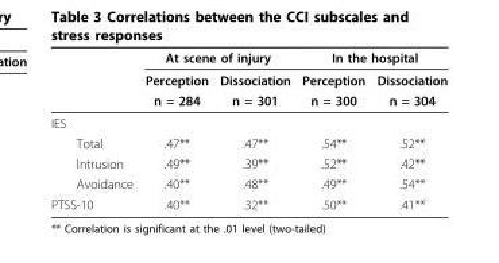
<table><thead><tr><td rowspan="2"></td><td colspan="2">At scene of injury</td><td colspan="2">In the hospital</td></tr><tr><td>Perception</td><td>Dissociation</td><td>Perception</td><td>Dissociation</td></tr></thead><tbody><tr><td></td><td>n = 284</td><td>n = 301</td><td>n = 300</td><td>n = 304</td></tr><tr><td colspan="5">IES</td></tr><tr><td>Total</td><td>.47**</td><td>.47**</td><td>.54**</td><td>.52**</td></tr><tr><td>Intrusion</td><td>.49**</td><td>.39**</td><td>.52**</td><td>.42**</td></tr><tr><td>Avoidance</td><td>.40**</td><td>.48**</td><td>.49**</td><td>.54**</td></tr><tr><td>PTSS-10</td><td>.40**</td><td>.32**</td><td>.50**</td><td>.41**</td></tr></tbody></table>